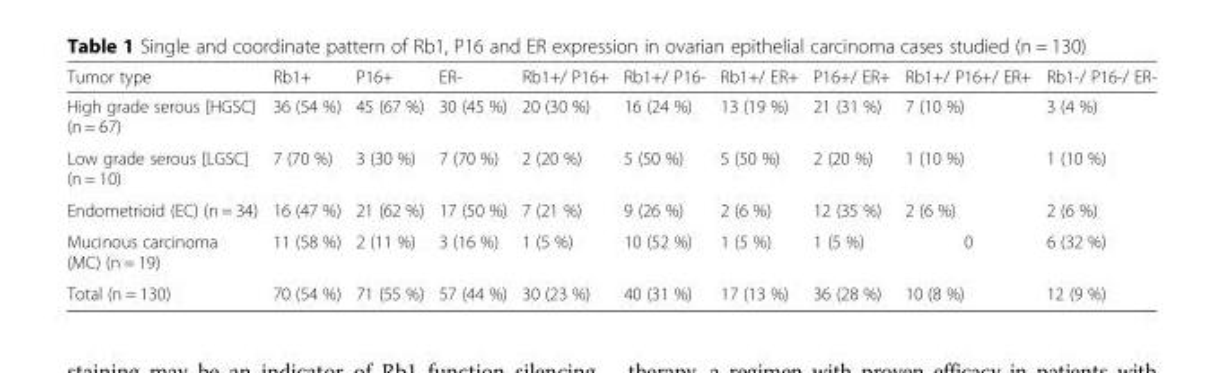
<table><thead><tr><td>Tumor type</td><td>Rb1+</td><td>P16+</td><td>ER-</td><td>Rb1+/ P16+</td><td>Rb1+/ P16-</td><td>Rb1+/ ER+</td><td>P16+/ ER+</td><td>Rb1+/ P16+/ ER+</td><td>Rb1-/ P16-/ ER-</td></tr></thead><tbody><tr><td>High grade serous [HGSC] (n = 67)</td><td>36 (54 %)</td><td>45 (67 %)</td><td>30 (45 %)</td><td>20 (30 %)</td><td>16 (24 %)</td><td>13 (19 %)</td><td>21 (31 %)</td><td>7 (10 %)</td><td>3 (4 %)</td></tr><tr><td>Low grade serous [LGSC] (n = 10)</td><td>7 (70 %)</td><td>3 (30 %)</td><td>7 (70 %)</td><td>2 (20 %)</td><td>5 (50 %)</td><td>5 (50 %)</td><td>2 (20 %)</td><td>1 (10 %)</td><td>1 (10 %)</td></tr><tr><td>Endometrioid (EC) (n = 34)</td><td>16 (47 %)</td><td>21 (62 %)</td><td>17 (50 %)</td><td>7 (21 %)</td><td>9 (26 %)</td><td>2 (6 %)</td><td>12 (35 %)</td><td>2 (6 %)</td><td>2 (6 %)</td></tr><tr><td>Mucinous carcinoma (MC) (n = 19)</td><td>11 (58 %)</td><td>2 (11 %)</td><td>3 (16 %)</td><td>1 (5 %)</td><td>10 (52 %)</td><td>1 (5 %)</td><td>1 (5 %)</td><td>0</td><td>6 (32 %)</td></tr><tr><td>Total (n = 130)</td><td>70 (54 %)</td><td>71 (55 %)</td><td>57 (44 %)</td><td>30 (23 %)</td><td>40 (31 %)</td><td>17 (13 %)</td><td>36 (28 %)</td><td>10 (8 %)</td><td>12 (9 %)</td></tr></tbody></table>